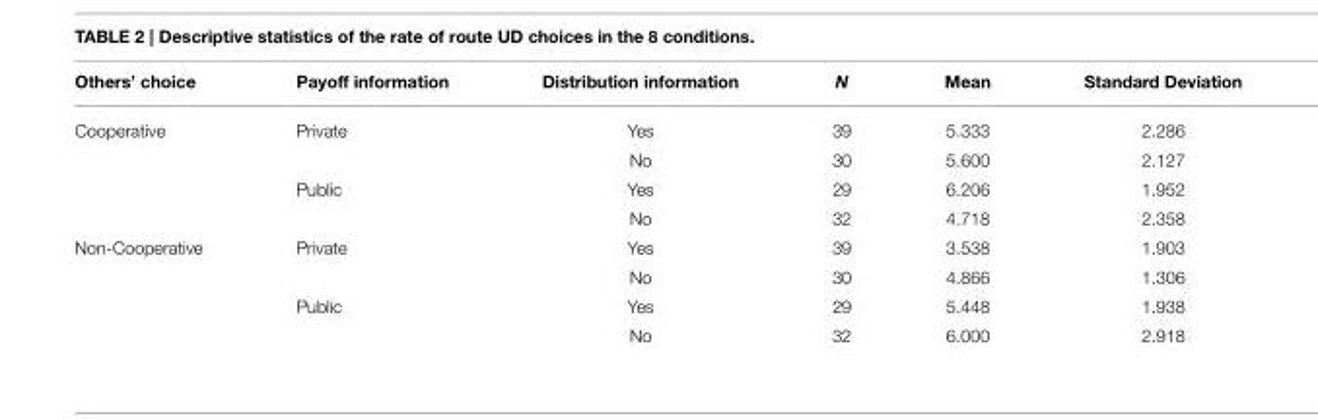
<table><thead><tr><td>Others’ choice</td><td>Payoff information</td><td>Distribution information</td><td>N</td><td>Mean</td><td>Standard Deviation</td></tr></thead><tbody><tr><td rowspan="4">Cooperative</td><td>Private</td><td>Yes</td><td>39</td><td>5.333</td><td>2.286</td></tr><tr><td></td><td>No</td><td>30</td><td>5.600</td><td>2.127</td></tr><tr><td>Public</td><td>Yes</td><td>29</td><td>6.206</td><td>1.952</td></tr><tr><td></td><td>No</td><td>32</td><td>4.718</td><td>2.358</td></tr><tr><td rowspan="4">Non-Cooperative</td><td>Private</td><td>Yes</td><td>39</td><td>3.538</td><td>1.903</td></tr><tr><td></td><td>No</td><td>30</td><td>4.866</td><td>1.306</td></tr><tr><td>Public</td><td>Yes</td><td>29</td><td>5.448</td><td>1.938</td></tr><tr><td></td><td>No</td><td>32</td><td>6.000</td><td>2.918</td></tr></tbody></table>